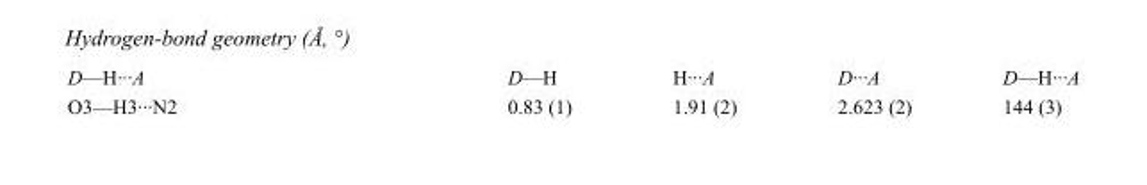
<table><tbody><tr><td>D—H···A</td><td>D—H</td><td>H···A</td><td>D···A</td><td>D—H···A</td></tr><tr><td>O3—H3···N2</td><td>0.83 (1)</td><td>1.91 (2)</td><td>2.623 (2)</td><td>144 (3)</td></tr></tbody></table>